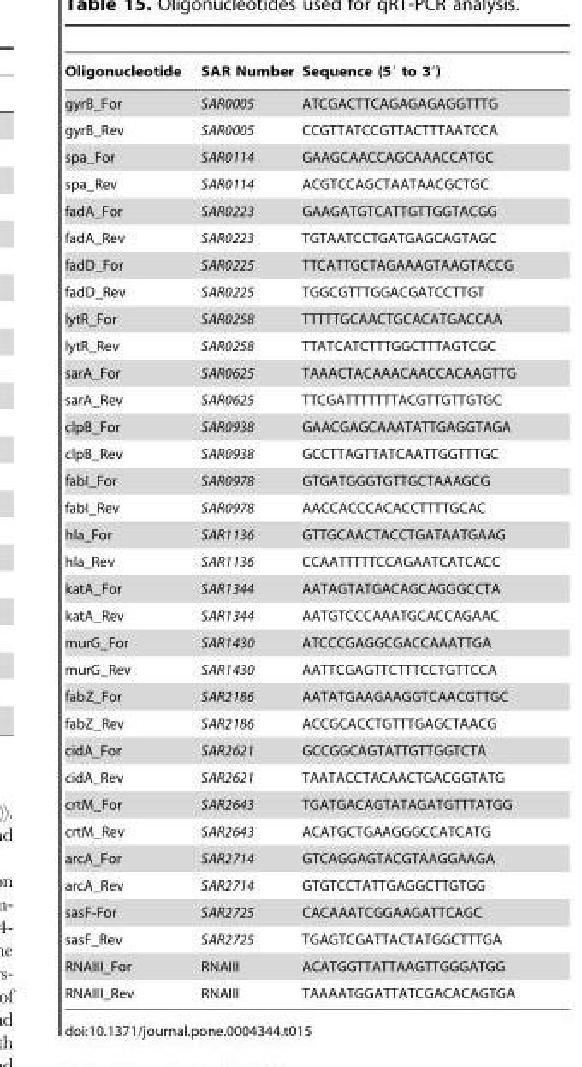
<table><thead><tr><td>Oligonucleotide</td><td>SAR Number</td><td>Sequence (5′ to 3′)</td></tr></thead><tbody><tr><td>gyrB_For</td><td>SAR0005</td><td>ATCGACTTCAGAGAGAGGTTTG</td></tr><tr><td>gyrB_Rev</td><td>SAR0005</td><td>CCGTTATCCGTTACTTTAATCCA</td></tr><tr><td>spa_For</td><td>SAR0114</td><td>GAAGCAACCAGCAAACCATGC</td></tr><tr><td>spa_Rev</td><td>SAR0114</td><td>ACGTCCAGCTAATAACGCTGC</td></tr><tr><td>fadA_For</td><td>SAR0223</td><td>GAAGATGTCATTGTTGGTACGG</td></tr><tr><td>fadA_Rev</td><td>SAR0223</td><td>TGTAATCCTGATGAGCAGTAGC</td></tr><tr><td>fadD_For</td><td>SAR0225</td><td>TTCATTGCTAGAAAGTAAGTACCG</td></tr><tr><td>fadD_Rev</td><td>SAR0225</td><td>TGGCGTTTGGACGATCCTTGT</td></tr><tr><td>lytR_For</td><td>SAR0258</td><td>TTTTTGCAACTGCACATGACCAA</td></tr><tr><td>lytR_Rev</td><td>SAR0258</td><td>TTATCATCTTTGGCTTTAGTCGC</td></tr><tr><td>sarA_For</td><td>SAR0625</td><td>TAAACTACAAACAACCACAAGTTG</td></tr><tr><td>sarA_Rev</td><td>SAR0625</td><td>TTCGATTTTTTTACGTTGTTGTGC</td></tr><tr><td>clpB_For</td><td>SAR0938</td><td>GAACGAGCAAATATTGAGGTAGA</td></tr><tr><td>clpB_Rev</td><td>SAR0938</td><td>GCCTTAGTTATCAATTGGTTTGC</td></tr><tr><td>fabI_For</td><td>SAR0978</td><td>GTGATGGGTGTTGCTAAAGCG</td></tr><tr><td>fabI_Rev</td><td>SAR0978</td><td>AACCACCCACACCTTTTGCAC</td></tr><tr><td>hla_For</td><td>SAR1136</td><td>GTTGCAACTACCTGATAATGAAG</td></tr><tr><td>hla_Rev</td><td>SAR1136</td><td>CCAATTTTTCCAGAATCATCACC</td></tr><tr><td>katA_For</td><td>SAR1344</td><td>AATAGTATGACAGCAGGGCCTA</td></tr><tr><td>katA_Rev</td><td>SAR1344</td><td>AATGTCCCAAATGCACCAGAAC</td></tr><tr><td>murG_For</td><td>SAR1430</td><td>ATCCCGAGGCGACCAAATTGA</td></tr><tr><td>murG_Rev</td><td>SAR1430</td><td>AATTCGAGTTCTTTCCTGTTCCA</td></tr><tr><td>fabZ_For</td><td>SAR2186</td><td>AATATGAAGAAGGTCAACGTTGC</td></tr><tr><td>fabZ_Rev</td><td>SAR2186</td><td>ACCGCACCTGTTTGAGCTAACG</td></tr><tr><td>cidA_For</td><td>SAR2621</td><td>GCCGGCAGTATTGTTGGTCTA</td></tr><tr><td>cidA_Rev</td><td>SAR2621</td><td>TAATACCTACAACTGACGGTATG</td></tr><tr><td>crtM_For</td><td>SAR2643</td><td>TGATGACAGTATAGATGTTTATGG</td></tr><tr><td>crtM_Rev</td><td>SAR2643</td><td>ACATGCTGAAGGGCCATCATG</td></tr><tr><td>arcA_For</td><td>SAR2714</td><td>GTCAGGAGTACGTAAGGAAGA</td></tr><tr><td>arcA_Rev</td><td>SAR2714</td><td>GTGTCCTATTGAGGCTTGTGG</td></tr><tr><td>sasF-For</td><td>SAR2725</td><td>CACAAATCGGAAGATTCAGC</td></tr><tr><td>sasF_Rev</td><td>SAR2725</td><td>TGAGTCGATTACTATGGCTTTGA</td></tr><tr><td>RNAIII_For</td><td>RNAIII</td><td>ACATGGTTATTAAGTTGGGATGG</td></tr><tr><td>RNAIII_Rev</td><td>RNAIII</td><td>TAAAATGGATTATCGACACAGTGA</td></tr></tbody></table>